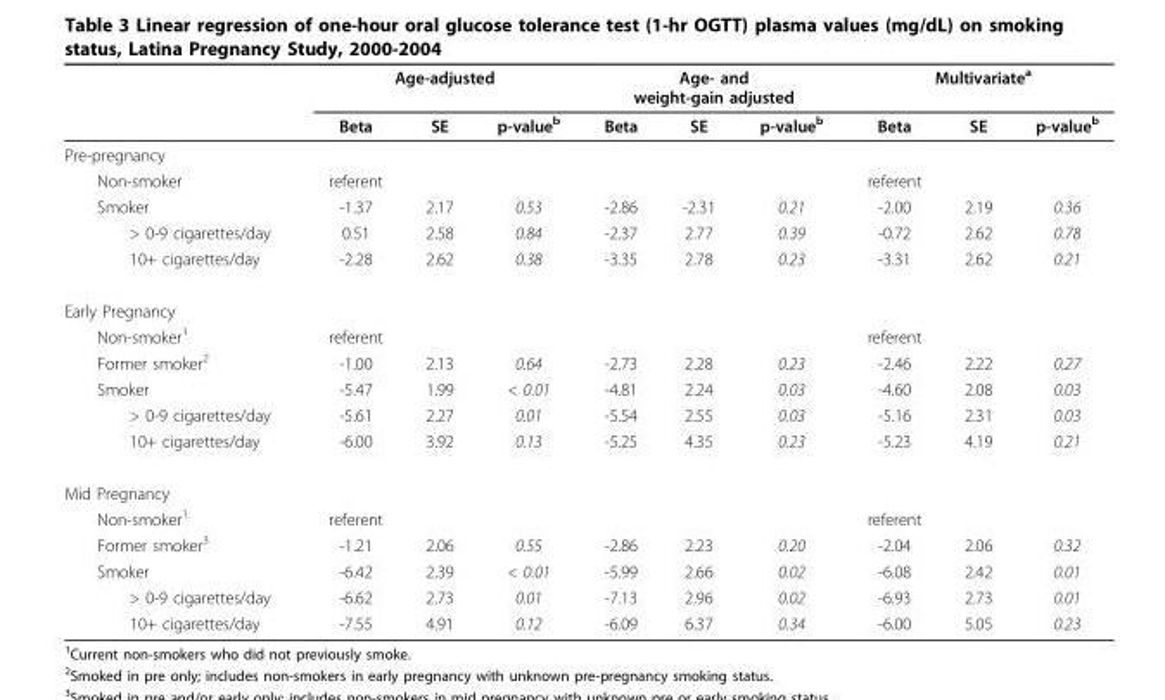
<table><thead><tr><td rowspan="2"></td><td colspan="3">Age-adjusted</td><td colspan="3">Age- and weight-gain adjusted</td><td colspan="3">Multivariate<sup>a</sup></td></tr><tr><td>Beta</td><td>SE</td><td>p-value<sup>b</sup></td><td>Beta</td><td>SE</td><td>p-value<sup>b</sup></td><td>Beta</td><td>SE</td><td>p-value<sup>b</sup></td></tr></thead><tbody><tr><td colspan="10">Pre-pregnancy</td></tr><tr><td>Non-smoker</td><td>referent</td><td></td><td></td><td></td><td></td><td></td><td>referent</td><td></td><td></td></tr><tr><td>Smoker</td><td>-1.37</td><td>2.17</td><td>0.53</td><td>-2.86</td><td>-2.31</td><td>0.21</td><td>-2.00</td><td>2.19</td><td>0.36</td></tr><tr><td>&gt; 0-9 cigarettes/day</td><td>0.51</td><td>2.58</td><td>0.84</td><td>-2.37</td><td>2.77</td><td>0.39</td><td>-0.72</td><td>2.62</td><td>0.78</td></tr><tr><td>10+ cigarettes/day</td><td>-2.28</td><td>2.62</td><td>0.38</td><td>-3.35</td><td>2.78</td><td>0.23</td><td>-3.31</td><td>2.62</td><td>0.21</td></tr><tr><td colspan="10">Early Pregnancy</td></tr><tr><td>Non-smoker<sup>1</sup></td><td>referent</td><td></td><td></td><td></td><td></td><td></td><td>referent</td><td></td><td></td></tr><tr><td>Former smoker<sup>2</sup></td><td>-1.00</td><td>2.13</td><td>0.64</td><td>-2.73</td><td>2.28</td><td>0.23</td><td>-2.46</td><td>2.22</td><td>0.27</td></tr><tr><td>Smoker</td><td>-5.47</td><td>1.99</td><td>&lt; 0.01</td><td>-4.81</td><td>2.24</td><td>0.03</td><td>-4.60</td><td>2.08</td><td>0.03</td></tr><tr><td>&gt; 0-9 cigarettes/day</td><td>-5.61</td><td>2.27</td><td>0.01</td><td>-5.54</td><td>2.55</td><td>0.03</td><td>-5.16</td><td>2.31</td><td>0.03</td></tr><tr><td>10+ cigarettes/day</td><td>-6.00</td><td>3.92</td><td>0.13</td><td>-5.25</td><td>4.35</td><td>0.23</td><td>-5.23</td><td>4.19</td><td>0.21</td></tr><tr><td colspan="10">Mid Pregnancy</td></tr><tr><td>Non-smoker<sup>1</sup></td><td>referent</td><td></td><td></td><td></td><td></td><td></td><td>referent</td><td></td><td></td></tr><tr><td>Former smoker<sup>3</sup></td><td>-1.21</td><td>2.06</td><td>0.55</td><td>-2.86</td><td>2.23</td><td>0.20</td><td>-2.04</td><td>2.06</td><td>0.32</td></tr><tr><td>Smoker</td><td>-6.42</td><td>2.39</td><td>&lt; 0.01</td><td>-5.99</td><td>2.66</td><td>0.02</td><td>-6.08</td><td>2.42</td><td>0.01</td></tr><tr><td>&gt; 0-9 cigarettes/day</td><td>-6.62</td><td>2.73</td><td>0.01</td><td>-7.13</td><td>2.96</td><td>0.02</td><td>-6.93</td><td>2.73</td><td>0.01</td></tr><tr><td>10+ cigarettes/day</td><td>-7.55</td><td>4.91</td><td>0.12</td><td>-6.09</td><td>6.37</td><td>0.34</td><td>-6.00</td><td>5.05</td><td>0.23</td></tr></tbody></table>